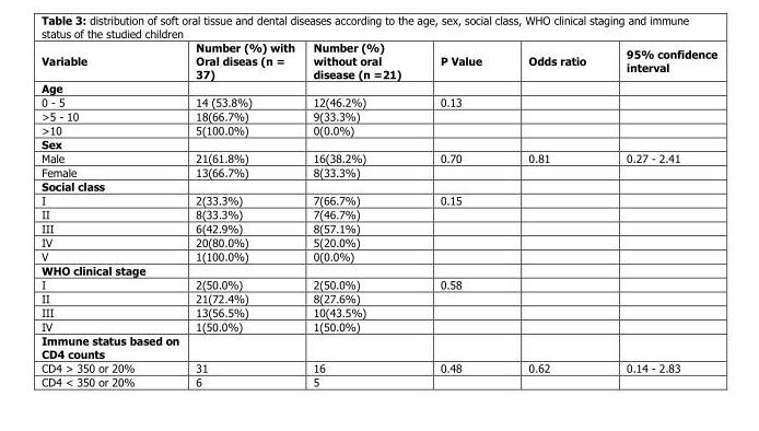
<table><thead><tr><td>Variable</td><td>Number (%) with Oral diseas (n = 37)</td><td>Number (%) without oral disease (n =21)</td><td>P Value</td><td>Odds ratio</td><td>95% confidence interval</td></tr></thead><tbody><tr><td colspan="6">Age</td></tr><tr><td>0 - 5</td><td>14 (53.8%)</td><td>12(46.2%)</td><td>0.13</td><td></td><td></td></tr><tr><td>&gt;5 - 10</td><td>18(66.7%)</td><td>9(33.3%)</td><td></td><td></td><td></td></tr><tr><td>&gt;10</td><td>5(100.0%)</td><td>0(0.0%)</td><td></td><td></td><td></td></tr><tr><td colspan="6">Sex</td></tr><tr><td>Male</td><td>21(61.8%)</td><td>16(38.2%)</td><td>0.70</td><td>0.81</td><td>0.27 - 2.41</td></tr><tr><td>Female</td><td>13(66.7%)</td><td>8(33.3%)</td><td></td><td></td><td></td></tr><tr><td colspan="6">Social class</td></tr><tr><td>I</td><td>2(33.3%)</td><td>7(66.7%)</td><td>0.15</td><td></td><td></td></tr><tr><td>II</td><td>8(33.3%)</td><td>7(46.7%)</td><td></td><td></td><td></td></tr><tr><td>III</td><td>6(42.9%)</td><td>8(57.1%)</td><td></td><td></td><td></td></tr><tr><td>IV</td><td>20(80.0%)</td><td>5(20.0%)</td><td></td><td></td><td></td></tr><tr><td>V</td><td>1(100.0%)</td><td>0(0.0%)</td><td></td><td></td><td></td></tr><tr><td colspan="6">WHO clinical stage</td></tr><tr><td>I</td><td>2(50.0%)</td><td>2(50.0%)</td><td>0.58</td><td></td><td></td></tr><tr><td>II</td><td>21(72.4%)</td><td>8(27.6%)</td><td></td><td></td><td></td></tr><tr><td>III</td><td>13(56.5%)</td><td>10(43.5%)</td><td></td><td></td><td></td></tr><tr><td>IV</td><td>1(50.0%)</td><td>1(50.0%)</td><td></td><td></td><td></td></tr><tr><td colspan="6">Immune status based on CD4 counts</td></tr><tr><td>CD4 &gt; 350 or 20%</td><td>31</td><td>16</td><td>0.48</td><td>0.62</td><td>0.14 - 2.83</td></tr><tr><td>CD4 &lt; 350 or 20%</td><td>6</td><td>5</td><td></td><td></td><td></td></tr></tbody></table>